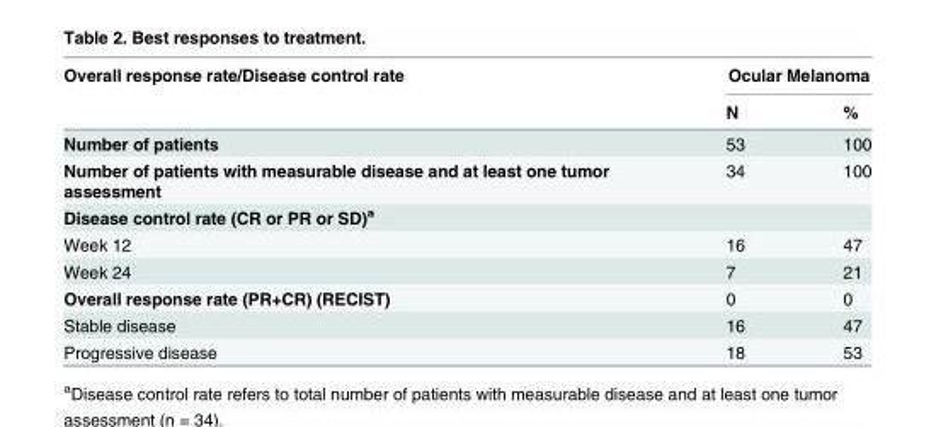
<table><thead><tr><td rowspan="2">Overall response rate/Disease control rate</td><td colspan="2">Ocular Melanoma</td></tr><tr><td>N</td><td>%</td></tr></thead><tbody><tr><td>Number of patients</td><td>53</td><td>100</td></tr><tr><td>Number of patients with measurable disease and at least one tumor assessment</td><td>34</td><td>100</td></tr><tr><td colspan="3">Disease control rate (CR or PR or SD)<sup>a</sup></td></tr><tr><td>Week 12</td><td>16</td><td>47</td></tr><tr><td>Week 24</td><td>7</td><td>21</td></tr><tr><td>Overall response rate (PR+CR) (RECIST)</td><td>0</td><td>0</td></tr><tr><td>Stable disease</td><td>16</td><td>47</td></tr><tr><td>Progressive disease</td><td>18</td><td>53</td></tr></tbody></table>